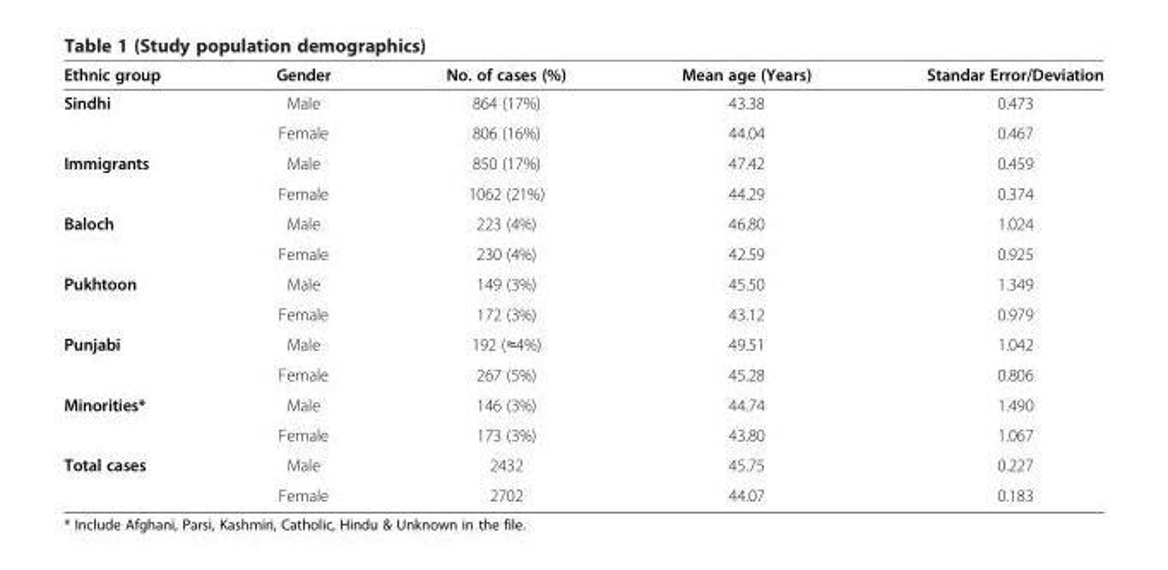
<table><thead><tr><td>Ethnic group</td><td>Gender</td><td>No. of cases (%)</td><td>Mean age (Years)</td><td>Standar Error/Deviation</td></tr></thead><tbody><tr><td rowspan="2">Sindhi</td><td>Male</td><td>864 (17%)</td><td>43.38</td><td>0.473</td></tr><tr><td>Female</td><td>806 (16%)</td><td>44.04</td><td>0.467</td></tr><tr><td rowspan="2">Immigrants</td><td>Male</td><td>850 (17%)</td><td>47.42</td><td>0.459</td></tr><tr><td>Female</td><td>1062 (21%)</td><td>44.29</td><td>0.374</td></tr><tr><td rowspan="2">Baloch</td><td>Male</td><td>223 (4%)</td><td>46.80</td><td>1.024</td></tr><tr><td>Female</td><td>230 (4%)</td><td>42.59</td><td>0.925</td></tr><tr><td rowspan="2">Pukhtoon</td><td>Male</td><td>149 (3%)</td><td>45.50</td><td>1.349</td></tr><tr><td>Female</td><td>172 (3%)</td><td>43.12</td><td>0.979</td></tr><tr><td rowspan="2">Punjabi</td><td>Male</td><td>192 (≈4%)</td><td>49.51</td><td>1.042</td></tr><tr><td>Female</td><td>267 (5%)</td><td>45.28</td><td>0.806</td></tr><tr><td rowspan="2">Minorities*</td><td>Male</td><td>146 (3%)</td><td>44.74</td><td>1.490</td></tr><tr><td>Female</td><td>173 (3%)</td><td>43.80</td><td>1.067</td></tr><tr><td rowspan="2">Total cases</td><td>Male</td><td>2432</td><td>45.75</td><td>0.227</td></tr><tr><td>Female</td><td>2702</td><td>44.07</td><td>0.183</td></tr></tbody></table>